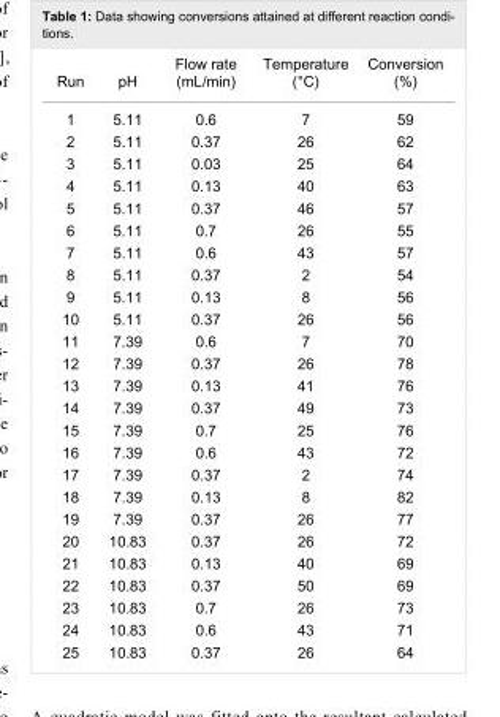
<table><tbody><tr><td>Run</td><td>pH</td><td>Flow rate (mL/min)</td><td>Temperature (°C)</td><td>Conversion (%)</td></tr><tr><td>1</td><td>5.11</td><td>0.6</td><td>7</td><td>59</td></tr><tr><td>2</td><td>5.11</td><td>0.37</td><td>26</td><td>62</td></tr><tr><td>3</td><td>5.11</td><td>0.03</td><td>25</td><td>64</td></tr><tr><td>4</td><td>5.11</td><td>0.13</td><td>40</td><td>63</td></tr><tr><td>5</td><td>5.11</td><td>0.37</td><td>46</td><td>57</td></tr><tr><td>6</td><td>5.11</td><td>0.7</td><td>26</td><td>55</td></tr><tr><td>7</td><td>5.11</td><td>0.6</td><td>43</td><td>57</td></tr><tr><td>8</td><td>5.11</td><td>0.37</td><td>2</td><td>54</td></tr><tr><td>9</td><td>5.11</td><td>0.13</td><td>8</td><td>56</td></tr><tr><td>10</td><td>5.11</td><td>0.37</td><td>26</td><td>56</td></tr><tr><td>11</td><td>7.39</td><td>0.6</td><td>7</td><td>70</td></tr><tr><td>12</td><td>7.39</td><td>0.37</td><td>26</td><td>78</td></tr><tr><td>13</td><td>7.39</td><td>0.13</td><td>41</td><td>76</td></tr><tr><td>14</td><td>7.39</td><td>0.37</td><td>49</td><td>73</td></tr><tr><td>15</td><td>7.39</td><td>0.7</td><td>25</td><td>76</td></tr><tr><td>16</td><td>7.39</td><td>0.6</td><td>43</td><td>72</td></tr><tr><td>17</td><td>7.39</td><td>0.37</td><td>2</td><td>74</td></tr><tr><td>18</td><td>7.39</td><td>0.13</td><td>8</td><td>82</td></tr><tr><td>19</td><td>7.39</td><td>0.37</td><td>26</td><td>77</td></tr><tr><td>20</td><td>10.83</td><td>0.37</td><td>26</td><td>72</td></tr><tr><td>21</td><td>10.83</td><td>0.13</td><td>40</td><td>69</td></tr><tr><td>22</td><td>10.83</td><td>0.37</td><td>50</td><td>69</td></tr><tr><td>23</td><td>10.83</td><td>0.7</td><td>26</td><td>73</td></tr><tr><td>24</td><td>10.83</td><td>0.6</td><td>43</td><td>71</td></tr><tr><td>25</td><td>10.83</td><td>0.37</td><td>26</td><td>64</td></tr></tbody></table>